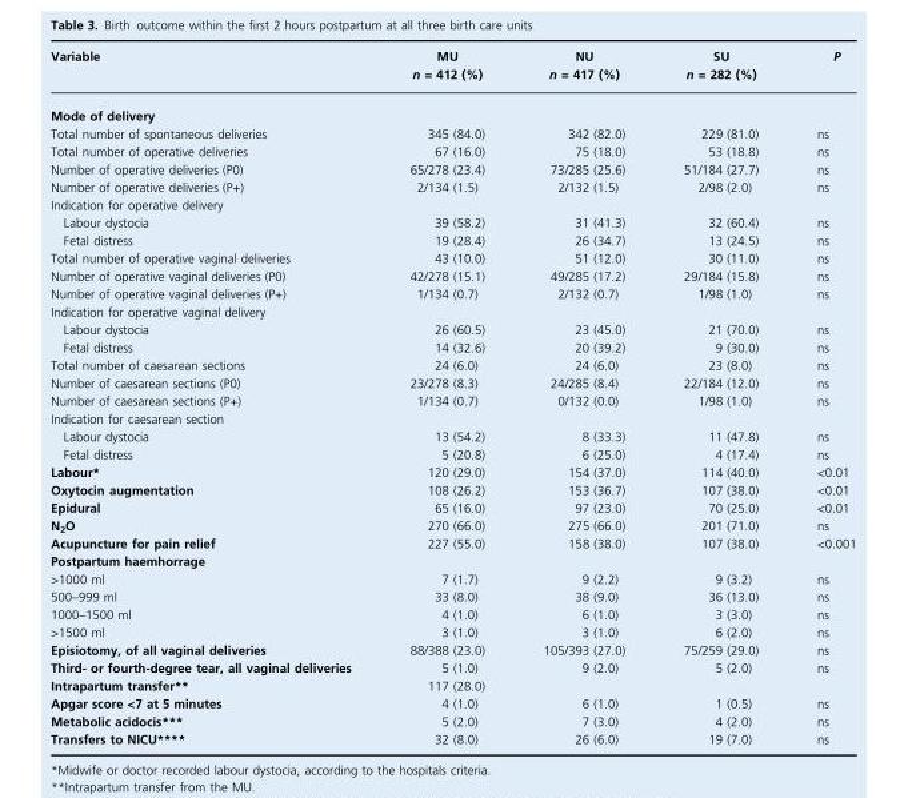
<table><thead><tr><td>Variable</td><td>MU n = 412 (%)</td><td>NU n = 417 (%)</td><td>SU n = 282 (%)</td><td>P</td></tr></thead><tbody><tr><td colspan="5">Mode of delivery</td></tr><tr><td>Total number of spontaneous deliveries</td><td>345 (84.0)</td><td>342 (82.0)</td><td>229 (81.0)</td><td>ns</td></tr><tr><td>Total number of operative deliveries</td><td>67 (16.0)</td><td>75 (18.0)</td><td>53 (18.8)</td><td>ns</td></tr><tr><td>Number of operative deliveries (P0)</td><td>65/278 (23.4)</td><td>73/285 (25.6)</td><td>51/184 (27.7)</td><td>ns</td></tr><tr><td>Number of operative deliveries (P+)</td><td>2/134 (1.5)</td><td>2/132 (1.5)</td><td>2/98 (2.0)</td><td>ns</td></tr><tr><td colspan="5">Indication for operative delivery</td></tr><tr><td>Labour dystocia</td><td>39 (58.2)</td><td>31 (41.3)</td><td>32 (60.4)</td><td>ns</td></tr><tr><td>Fetal distress</td><td>19 (28.4)</td><td>26 (34.7)</td><td>13 (24.5)</td><td>ns</td></tr><tr><td>Total number of operative vaginal deliveries</td><td>43 (10.0)</td><td>51 (12.0)</td><td>30 (11.0)</td><td>ns</td></tr><tr><td>Number of operative vaginal deliveries (P0)</td><td>42/278 (15.1)</td><td>49/285 (17.2)</td><td>29/184 (15.8)</td><td>ns</td></tr><tr><td>Number of operative vaginal deliveries (P+)</td><td>1/134 (0.7)</td><td>2/132 (0.7)</td><td>1/98 (1.0)</td><td>ns</td></tr><tr><td colspan="5">Indication for operative vaginal delivery</td></tr><tr><td>Labour dystocia</td><td>26 (60.5)</td><td>23 (45.0)</td><td>21 (70.0)</td><td>ns</td></tr><tr><td>Fetal distress</td><td>14 (32.6)</td><td>20 (39.2)</td><td>9 (30.0)</td><td>ns</td></tr><tr><td>Total number of caesarean sections</td><td>24 (6.0)</td><td>24 (6.0)</td><td>23 (8.0)</td><td>ns</td></tr><tr><td>Number of caesarean sections (P0)</td><td>23/278 (8.3)</td><td>24/285 (8.4)</td><td>22/184 (12.0)</td><td>ns</td></tr><tr><td>Number of caesarean sections (P+)</td><td>1/134 (0.7)</td><td>0/132 (0.0)</td><td>1/98 (1.0)</td><td>ns</td></tr><tr><td colspan="5">Indication for caesarean section</td></tr><tr><td>Labour dystocia</td><td>13 (54.2)</td><td>8 (33.3)</td><td>11 (47.8)</td><td>ns</td></tr><tr><td>Fetal distress</td><td>5 (20.8)</td><td>6 (25.0)</td><td>4 (17.4)</td><td>ns</td></tr><tr><td>Labour*</td><td>120 (29.0)</td><td>154 (37.0)</td><td>114 (40.0)</td><td>&lt;0.01</td></tr><tr><td>Oxytocin augmentation</td><td>108 (26.2)</td><td>153 (36.7)</td><td>107 (38.0)</td><td>&lt;0.01</td></tr><tr><td>Epidural</td><td>65 (16.0)</td><td>97 (23.0)</td><td>70 (25.0)</td><td>&lt;0.01</td></tr><tr><td>N<sub>2</sub>O</td><td>270 (66.0)</td><td>275 (66.0)</td><td>201 (71.0)</td><td>ns</td></tr><tr><td>Acupuncture for pain relief</td><td>227 (55.0)</td><td>158 (38.0)</td><td>107 (38.0)</td><td>&lt;0.001</td></tr><tr><td colspan="5">Postpartum haemhorrage</td></tr><tr><td>&gt;1000 ml</td><td>7 (1.7)</td><td>9 (2.2)</td><td>9 (3.2)</td><td>ns</td></tr><tr><td>500–999 ml</td><td>33 (8.0)</td><td>38 (9.0)</td><td>36 (13.0)</td><td>ns</td></tr><tr><td>1000–1500 ml</td><td>4 (1.0)</td><td>6 (1.0)</td><td>3 (3.0)</td><td>ns</td></tr><tr><td>&gt;1500 ml</td><td>3 (1.0)</td><td>3 (1.0)</td><td>6 (2.0)</td><td>ns</td></tr><tr><td>Episiotomy, of all vaginal deliveries</td><td>88/388 (23.0)</td><td>105/393 (27.0)</td><td>75/259 (29.0)</td><td>ns</td></tr><tr><td>Third- or fourth-degree tear, all vaginal deliveries</td><td>5 (1.0)</td><td>9 (2.0)</td><td>5 (2.0)</td><td>ns</td></tr><tr><td>Intrapartum transfer**</td><td>117 (28.0)</td><td></td><td></td><td></td></tr><tr><td>Apgar score &lt;7 at 5 minutes</td><td>4 (1.0)</td><td>6 (1.0)</td><td>1 (0.5)</td><td>ns</td></tr><tr><td>Metabolic acidocis***</td><td>5 (2.0)</td><td>7 (3.0)</td><td>4 (2.0)</td><td>ns</td></tr><tr><td>Transfers to NICU****</td><td>32 (8.0)</td><td>26 (6.0)</td><td>19 (7.0)</td><td>ns</td></tr></tbody></table>